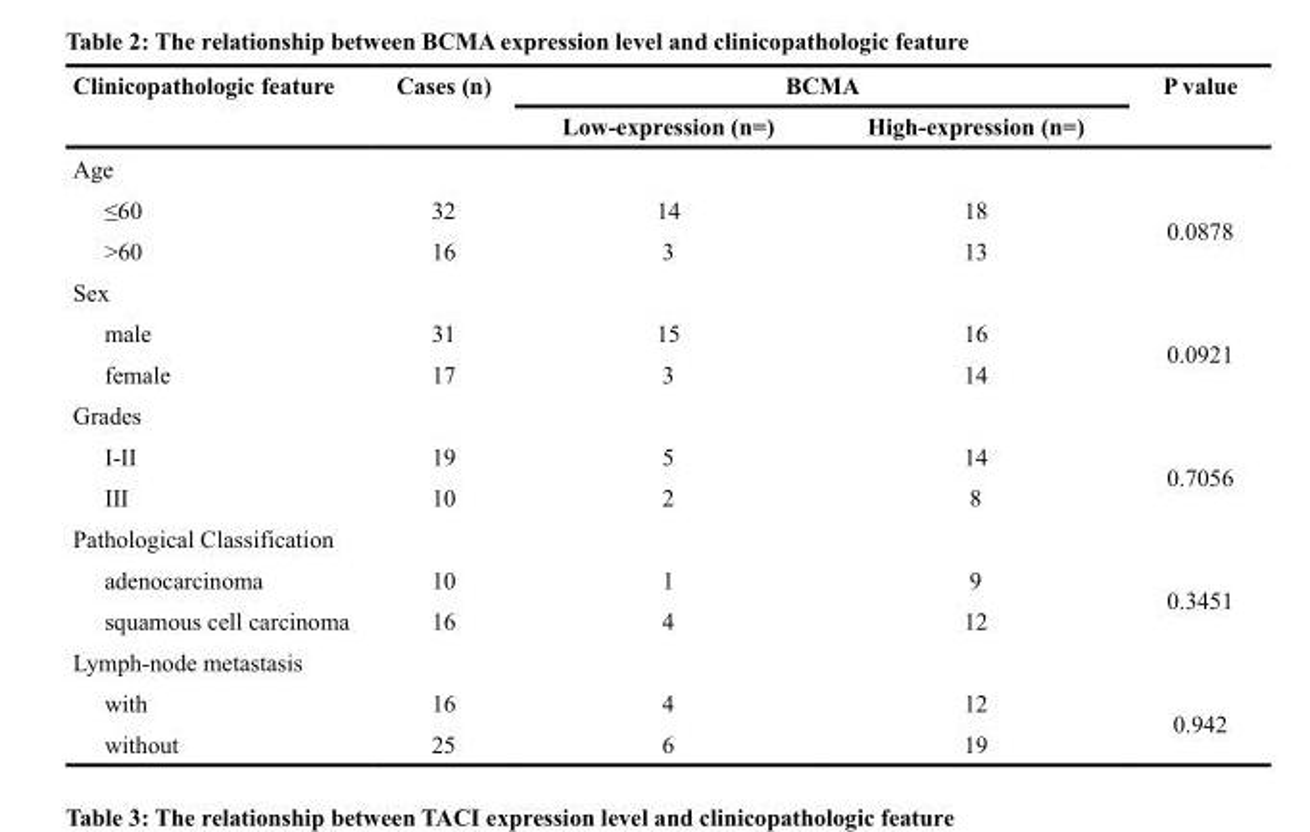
<table><thead><tr><td rowspan="2">Clinicopathologic feature</td><td rowspan="2">Cases (n)</td><td colspan="2">BCMA</td><td rowspan="2">P value</td></tr><tr><td>Low-expression (n=)</td><td>High-expression (n=)</td></tr></thead><tbody><tr><td colspan="5">Age</td></tr><tr><td>≤60</td><td>32</td><td>14</td><td>18</td><td rowspan="2">0.0878</td></tr><tr><td>&gt;60</td><td>16</td><td>3</td><td>13</td></tr><tr><td colspan="5">Sex</td></tr><tr><td>male</td><td>31</td><td>15</td><td>16</td><td rowspan="2">0.0921</td></tr><tr><td>female</td><td>17</td><td>3</td><td>14</td></tr><tr><td colspan="5">Grades</td></tr><tr><td>I-II</td><td>19</td><td>5</td><td>14</td><td rowspan="2">0.7056</td></tr><tr><td>III</td><td>10</td><td>2</td><td>8</td></tr><tr><td colspan="5">Pathological Classification</td></tr><tr><td>adenocarcinoma</td><td>10</td><td>1</td><td>9</td><td rowspan="2">0.3451</td></tr><tr><td>squamous cell carcinoma</td><td>16</td><td>4</td><td>12</td></tr><tr><td colspan="5">Lymph-node metastasis</td></tr><tr><td>with</td><td>16</td><td>4</td><td>12</td><td rowspan="2">0.942</td></tr><tr><td>without</td><td>25</td><td>6</td><td>19</td></tr></tbody></table>